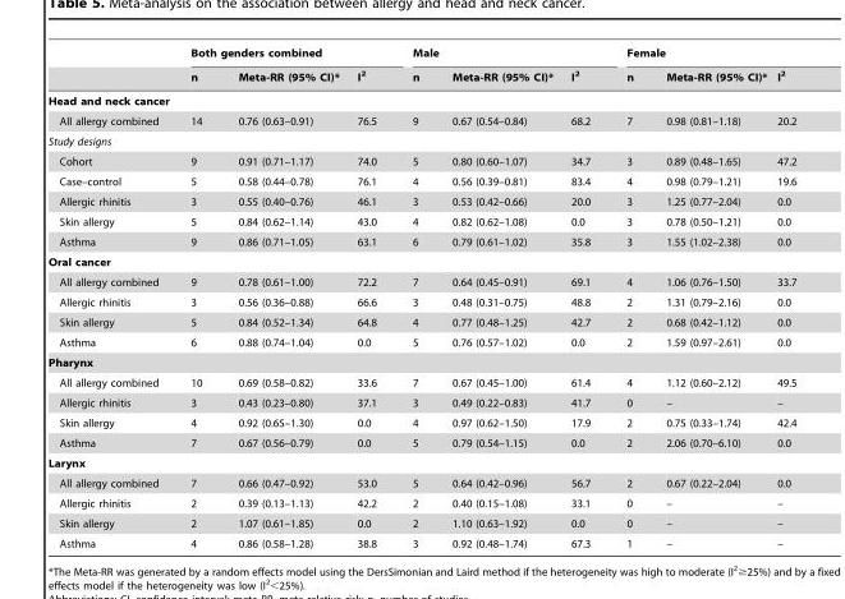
<table><thead><tr><td rowspan="2"></td><td colspan="3">Both genders combined</td><td colspan="3">Male</td><td colspan="3">Female</td></tr><tr><td>n</td><td>Meta-RR (95% CI)*</td><td>I<sup>2</sup></td><td>n</td><td>Meta-RR (95% CI)*</td><td>I<sup>2</sup></td><td>n</td><td>Meta-RR (95% CI)*</td><td>I<sup>2</sup></td></tr></thead><tbody><tr><td colspan="10">Head and neck cancer</td></tr><tr><td>All allergy combined</td><td>14</td><td>0.76 (0.63–0.91)</td><td>76.5</td><td>9</td><td>0.67 (0.54–0.84)</td><td>68.2</td><td>7</td><td>0.98 (0.81–1.18)</td><td>20.2</td></tr><tr><td colspan="10">Study designs</td></tr><tr><td>Cohort</td><td>9</td><td>0.91 (0.71–1.17)</td><td>74.0</td><td>5</td><td>0.80 (0.60–1.07)</td><td>34.7</td><td>3</td><td>0.89 (0.48–1.65)</td><td>47.2</td></tr><tr><td>Case–control</td><td>5</td><td>0.58 (0.44–0.78)</td><td>76.1</td><td>4</td><td>0.56 (0.39–0.81)</td><td>83.4</td><td>4</td><td>0.98 (0.79–1.21)</td><td>19.6</td></tr><tr><td>Allergic rhinitis</td><td>3</td><td>0.55 (0.40–0.76)</td><td>46.1</td><td>3</td><td>0.53 (0.42–0.66)</td><td>20.0</td><td>3</td><td>1.25 (0.77–2.04)</td><td>0.0</td></tr><tr><td>Skin allergy</td><td>5</td><td>0.84 (0.62–1.14)</td><td>43.0</td><td>4</td><td>0.82 (0.62–1.08)</td><td>0.0</td><td>3</td><td>0.78 (0.50–1.21)</td><td>0.0</td></tr><tr><td>Asthma</td><td>9</td><td>0.86 (0.71–1.05)</td><td>63.1</td><td>6</td><td>0.79 (0.61–1.02)</td><td>35.8</td><td>3</td><td>1.55 (1.02–2.38)</td><td>0.0</td></tr><tr><td colspan="10">Oral cancer</td></tr><tr><td>All allergy combined</td><td>9</td><td>0.78 (0.61–1.00)</td><td>72.2</td><td>7</td><td>0.64 (0.45–0.91)</td><td>69.1</td><td>4</td><td>1.06 (0.76–1.50)</td><td>33.7</td></tr><tr><td>Allergic rhinitis</td><td>3</td><td>0.56 (0.36–0.88)</td><td>66.6</td><td>3</td><td>0.48 (0.31–0.75)</td><td>48.8</td><td>2</td><td>1.31 (0.79–2.16)</td><td>0.0</td></tr><tr><td>Skin allergy</td><td>5</td><td>0.84 (0.52–1.34)</td><td>64.8</td><td>4</td><td>0.77 (0.48–1.25)</td><td>42.7</td><td>2</td><td>0.68 (0.42–1.12)</td><td>0.0</td></tr><tr><td>Asthma</td><td>6</td><td>0.88 (0.74–1.04)</td><td>0.0</td><td>5</td><td>0.76 (0.57–1.02)</td><td>0.0</td><td>2</td><td>1.59 (0.97–2.61)</td><td>0.0</td></tr><tr><td colspan="10">Pharynx</td></tr><tr><td>All allergy combined</td><td>10</td><td>0.69 (0.58–0.82)</td><td>33.6</td><td>7</td><td>0.67 (0.45–1.00)</td><td>61.4</td><td>4</td><td>1.12 (0.60–2.12)</td><td>49.5</td></tr><tr><td>Allergic rhinitis</td><td>3</td><td>0.43 (0.23–0.80)</td><td>37.1</td><td>3</td><td>0.49 (0.22–0.83)</td><td>41.7</td><td>0</td><td>–</td><td>–</td></tr><tr><td>Skin allergy</td><td>4</td><td>0.92 (0.65–1.30)</td><td>0.0</td><td>4</td><td>0.97 (0.62–1.50)</td><td>17.9</td><td>2</td><td>0.75 (0.33–1.74)</td><td>42.4</td></tr><tr><td>Asthma</td><td>7</td><td>0.67 (0.56–0.79)</td><td>0.0</td><td>5</td><td>0.79 (0.54–1.15)</td><td>0.0</td><td>2</td><td>2.06 (0.70–6.10)</td><td>0.0</td></tr><tr><td colspan="10">Larynx</td></tr><tr><td>All allergy combined</td><td>7</td><td>0.66 (0.47–0.92)</td><td>53.0</td><td>5</td><td>0.64 (0.42–0.96)</td><td>56.7</td><td>2</td><td>0.67 (0.22–2.04)</td><td>0.0</td></tr><tr><td>Allergic rhinitis</td><td>2</td><td>0.39 (0.13–1.13)</td><td>42.2</td><td>2</td><td>0.40 (0.15–1.08)</td><td>33.1</td><td>0</td><td>–</td><td>–</td></tr><tr><td>Skin allergy</td><td>2</td><td>1.07 (0.61–1.85)</td><td>0.0</td><td>2</td><td>1.10 (0.63–1.92)</td><td>0.0</td><td>0</td><td>–</td><td>–</td></tr><tr><td>Asthma</td><td>4</td><td>0.86 (0.58–1.28)</td><td>38.8</td><td>3</td><td>0.92 (0.48–1.74)</td><td>67.3</td><td>1</td><td>–</td><td>–</td></tr></tbody></table>